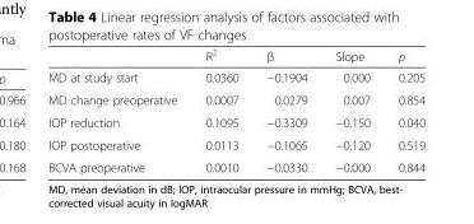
<table><thead><tr><td></td><td>R<sup>2</sup></td><td>β</td><td>Slope</td><td>p</td></tr></thead><tbody><tr><td>MD at study start</td><td>0.0360</td><td>−0.1904</td><td>0.000</td><td>0.205</td></tr><tr><td>MD change preoperative</td><td>0.0007</td><td>0.0279</td><td>0.007</td><td>0.854</td></tr><tr><td>IOP reduction</td><td>0.1095</td><td>−0.3309</td><td>−0.150</td><td>0.040</td></tr><tr><td>IOP postoperative</td><td>0.0113</td><td>−0.1065</td><td>−0.120</td><td>0.519</td></tr><tr><td>BCVA preoperative</td><td>0.0010</td><td>−0.0330</td><td>−0.000</td><td>0.844</td></tr></tbody></table>